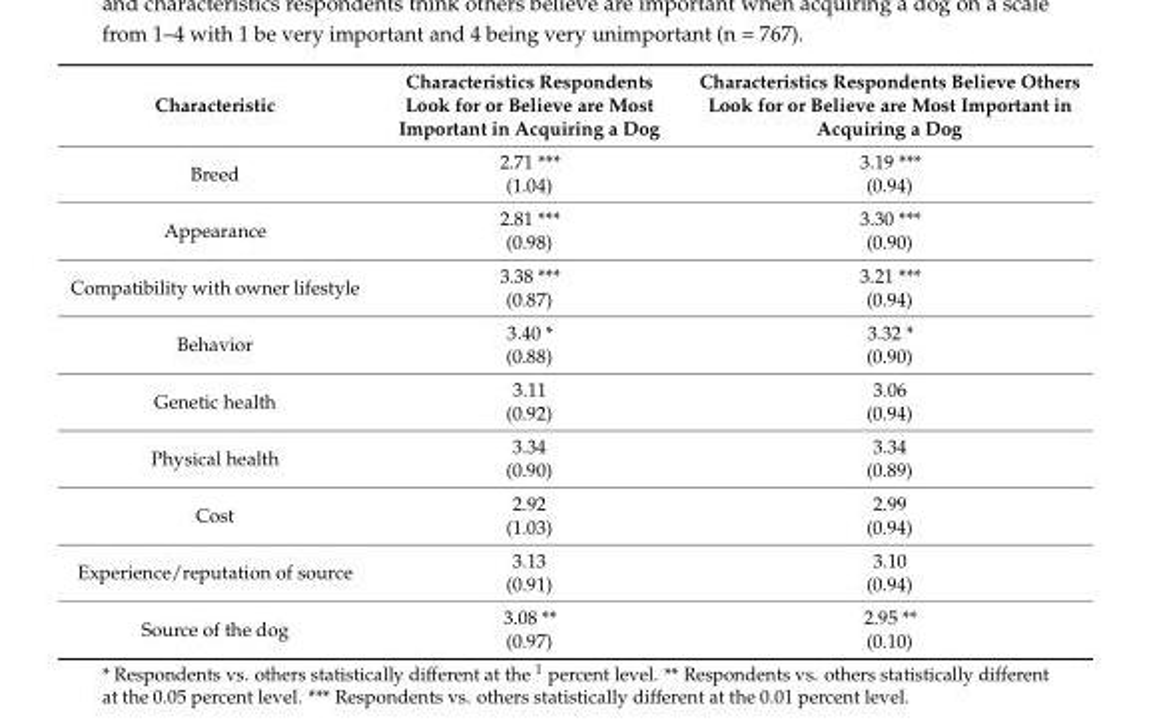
<table><thead><tr><td>Characteristic</td><td>Characteristics Respondents Look for or Believe are Most Important in Acquiring a Dog</td><td>Characteristics Respondents Believe Others Look for or Believe are Most Important in Acquiring a Dog</td></tr></thead><tbody><tr><td>Breed</td><td>2.71 *** (1.04)</td><td>3.19 *** (0.94)</td></tr><tr><td>Appearance</td><td>2.81 *** (0.98)</td><td>3.30 *** (0.90)</td></tr><tr><td>Compatibility with owner lifestyle</td><td>3.38 *** (0.87)</td><td>3.21 *** (0.94)</td></tr><tr><td>Behavior</td><td>3.40 * (0.88)</td><td>3.32 * (0.90)</td></tr><tr><td>Genetic health</td><td>3.11 (0.92)</td><td>3.06 (0.94)</td></tr><tr><td>Physical health</td><td>3.34 (0.90)</td><td>3.34 (0.89)</td></tr><tr><td>Cost</td><td>2.92 (1.03)</td><td>2.99 (0.94)</td></tr><tr><td>Experience/reputation of source</td><td>3.13 (0.91)</td><td>3.10 (0.94)</td></tr><tr><td>Source of the dog</td><td>3.08 ** (0.97)</td><td>2.95 ** (0.10)</td></tr></tbody></table>